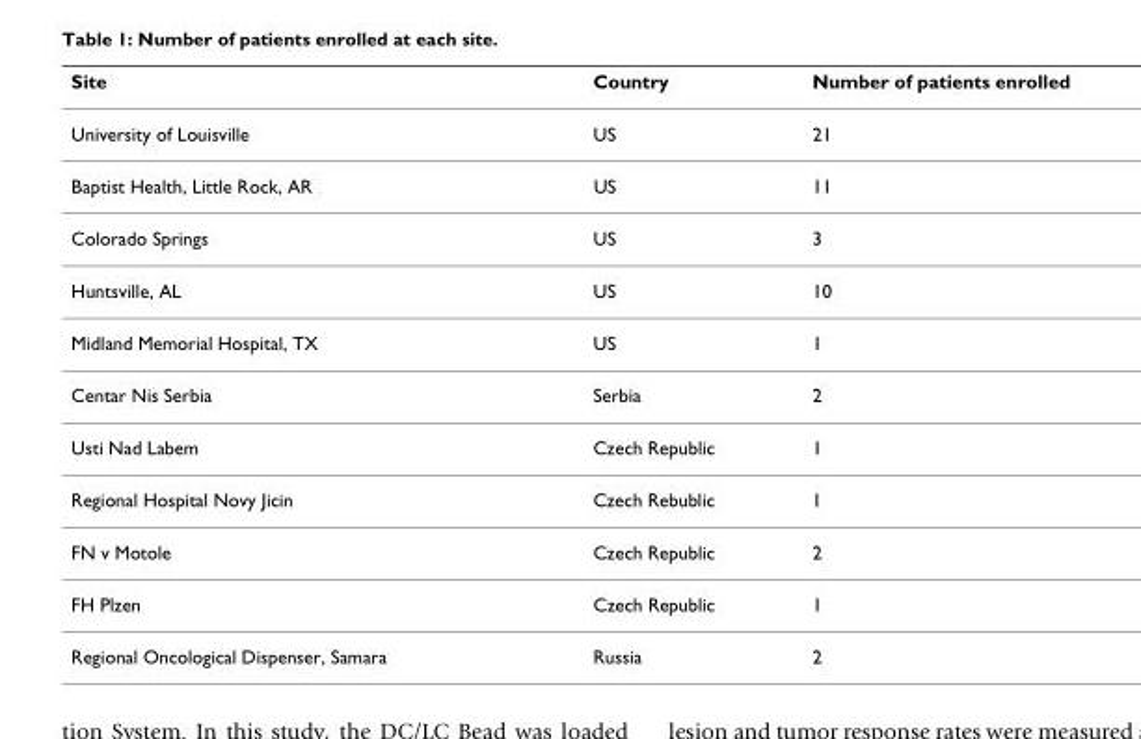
<table><thead><tr><td>Site</td><td>Country</td><td>Number of patients enrolled</td></tr></thead><tbody><tr><td>University of Louisville</td><td>US</td><td>21</td></tr><tr><td>Baptist Health, Little Rock, AR</td><td>US</td><td>11</td></tr><tr><td>Colorado Springs</td><td>US</td><td>3</td></tr><tr><td>Huntsville, AL</td><td>US</td><td>10</td></tr><tr><td>Midland Memorial Hospital, TX</td><td>US</td><td>1</td></tr><tr><td>Centar Nis Serbia</td><td>Serbia</td><td>2</td></tr><tr><td>Usti Nad Labem</td><td>Czech Republic</td><td>1</td></tr><tr><td>Regional Hospital Novy Jicin</td><td>Czech Rebublic</td><td>1</td></tr><tr><td>FN v Motole</td><td>Czech Republic</td><td>2</td></tr><tr><td>FH Plzen</td><td>Czech Republic</td><td>1</td></tr><tr><td>Regional Oncological Dispenser, Samara</td><td>Russia</td><td>2</td></tr></tbody></table>